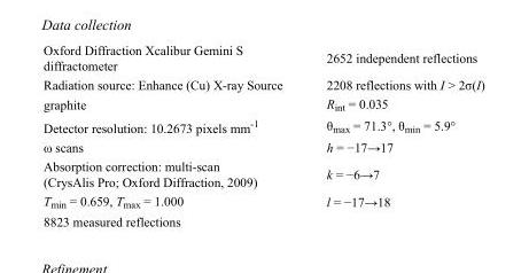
<table><tbody><tr><td>Oxford Diffraction Xcalibur Gemini S diffractometer</td><td>2652 independent reflections</td></tr><tr><td>Radiation source: Enhance (Cu) X-ray Source</td><td>2208 reflections with I &gt; 2σ(I)</td></tr><tr><td>graphite</td><td>R<sub>int</sub> = 0.035</td></tr><tr><td>Detector resolution: 10.2673 pixels mm<sup>-1</sup></td><td>θ<sub>max</sub> = 71.3°, θ<sub>min</sub> = 5.9°</td></tr><tr><td>ω scans</td><td>h = −17→17</td></tr><tr><td>Absorption correction: multi-scan (CrysAlis Pro; Oxford Diffraction, 2009)</td><td>k = −6→7</td></tr><tr><td>T<sub>min</sub> = 0.659, T<sub>max</sub> = 1.000</td><td>l = −17→18</td></tr><tr><td>8823 measured reflections</td><td></td></tr></tbody></table>